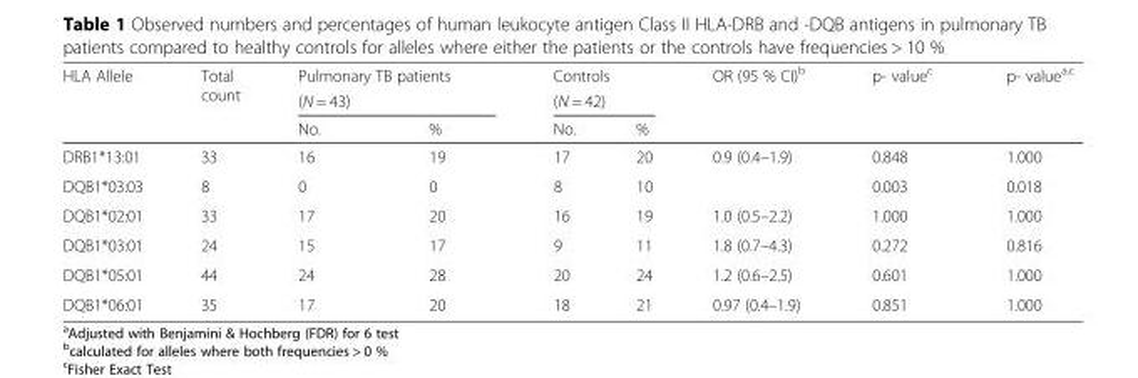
<table><thead><tr><td rowspan="3">HLA Allele</td><td rowspan="3">Total count</td><td rowspan="2" colspan="2">Pulmonary TB patients (N = 43)</td><td rowspan="2" colspan="2">Controls (N = 42)</td><td rowspan="3">OR (95 % CI)<sup>b</sup></td><td rowspan="3">p- value<sup>c</sup></td><td rowspan="3">p- value<sup>a,c</sup></td></tr><tr></tr><tr><td>No.</td><td>%</td><td>No.</td><td>%</td></tr></thead><tbody><tr><td>DRB1*13:01</td><td>33</td><td>16</td><td>19</td><td>17</td><td>20</td><td>0.9 (0.4–1.9)</td><td>0.848</td><td>1.000</td></tr><tr><td>DQB1*03:03</td><td>8</td><td>0</td><td>0</td><td>8</td><td>10</td><td></td><td>0.003</td><td>0.018</td></tr><tr><td>DQB1*02:01</td><td>33</td><td>17</td><td>20</td><td>16</td><td>19</td><td>1.0 (0.5–2.2)</td><td>1.000</td><td>1.000</td></tr><tr><td>DQB1*03:01</td><td>24</td><td>15</td><td>17</td><td>9</td><td>11</td><td>1.8 (0.7–4.3)</td><td>0.272</td><td>0.816</td></tr><tr><td>DQB1*05:01</td><td>44</td><td>24</td><td>28</td><td>20</td><td>24</td><td>1.2 (0.6–2.5)</td><td>0.601</td><td>1.000</td></tr><tr><td>DQB1*06:01</td><td>35</td><td>17</td><td>20</td><td>18</td><td>21</td><td>0.97 (0.4–1.9)</td><td>0.851</td><td>1.000</td></tr></tbody></table>